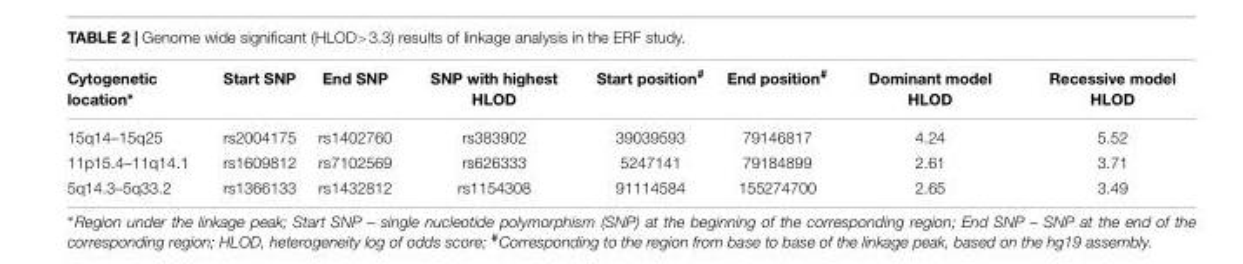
<table><thead><tr><td>Cytogenetic location∗</td><td>Start SNP</td><td>End SNP</td><td>SNP with highest HLOD</td><td>Start position<sup>#</sup></td><td>End position<sup>#</sup></td><td>Dominant model HLOD</td><td>Recessive model HLOD</td></tr></thead><tbody><tr><td>15q14–15q25</td><td>rs2004175</td><td>rs1402760</td><td>rs383902</td><td>39039593</td><td>79146817</td><td>4.24</td><td>5.52</td></tr><tr><td>11p15.4–11q14.1</td><td>rs1609812</td><td>rs7102569</td><td>rs626333</td><td>5247141</td><td>79184899</td><td>2.61</td><td>3.71</td></tr><tr><td>5q14.3–5q33.2</td><td>rs1366133</td><td>rs1432812</td><td>rs1154308</td><td>91114584</td><td>155274700</td><td>2.65</td><td>3.49</td></tr></tbody></table>